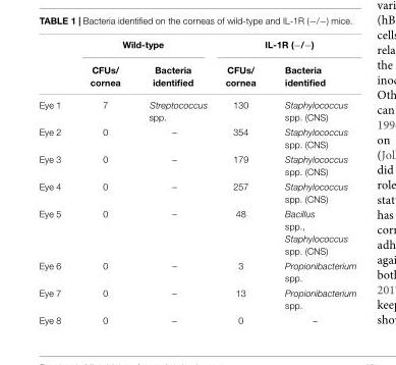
<table><thead><tr><td rowspan="2"></td><td colspan="2">Wild-type</td><td colspan="2">IL-1R (−/−)</td></tr><tr><td>CFUs/ cornea</td><td>Bacteria identified</td><td>CFUs/ cornea</td><td>Bacteria identified</td></tr></thead><tbody><tr><td>Eye 1</td><td>7</td><td>Streptococcus spp.</td><td>130</td><td>Staphylococcus spp. (CNS)</td></tr><tr><td>Eye 2</td><td>0</td><td>–</td><td>354</td><td>Staphylococcus spp. (CNS)</td></tr><tr><td>Eye 3</td><td>0</td><td>–</td><td>179</td><td>Staphylococcus spp. (CNS)</td></tr><tr><td>Eye 4</td><td>0</td><td>–</td><td>257</td><td>Staphylococcus spp. (CNS)</td></tr><tr><td>Eye 5</td><td>0</td><td>–</td><td>48</td><td>Bacillus spp., Staphylococcus spp. (CNS)</td></tr><tr><td>Eye 6</td><td>0</td><td>–</td><td>3</td><td>Propionibacterium spp.</td></tr><tr><td>Eye 7</td><td>0</td><td>–</td><td>13</td><td>Propionibacterium spp.</td></tr><tr><td>Eye 8</td><td>0</td><td>–</td><td>0</td><td>–</td></tr></tbody></table>